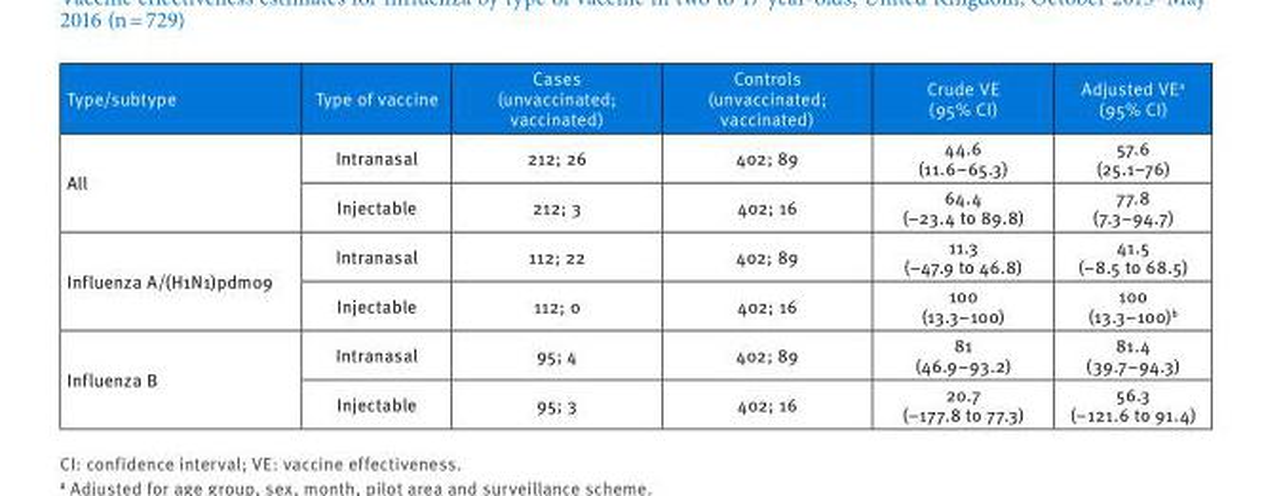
<table><thead><tr><td>Type/subtype</td><td>Type of vaccine</td><td>Cases (unvaccinated; vaccinated)</td><td>Controls (unvaccinated; vaccinated)</td><td>Crude VE (95% CI)</td><td>Adjusted VE<sup>a</sup> (95% CI)</td></tr></thead><tbody><tr><td rowspan="2">All</td><td>Intranasal</td><td>212; 26</td><td>402; 89</td><td>44.6 (11.6–65.3)</td><td>57.6 (25.1–76)</td></tr><tr><td>Injectable</td><td>212; 3</td><td>402; 16</td><td>64.4 (−23.4 to 89.8)</td><td>77.8 (7.3–94.7)</td></tr><tr><td rowspan="2">Influenza A/(H1N1)pdm09</td><td>Intranasal</td><td>112; 22</td><td>402; 89</td><td>11.3 (−47.9 to 46.8)</td><td>41.5 (−8.5 to 68.5)</td></tr><tr><td>Injectable</td><td>112; 0</td><td>402; 16</td><td>100 (13.3–100)</td><td>100 (13.3–100)<sup>b</sup></td></tr><tr><td rowspan="2">Influenza B</td><td>Intranasal</td><td>95; 4</td><td>402; 89</td><td>81 (46.9–93.2)</td><td>81.4 (39.7–94.3)</td></tr><tr><td>Injectable</td><td>95; 3</td><td>402; 16</td><td>20.7 (−177.8 to 77.3)</td><td>56.3 (−121.6 to 91.4)</td></tr></tbody></table>